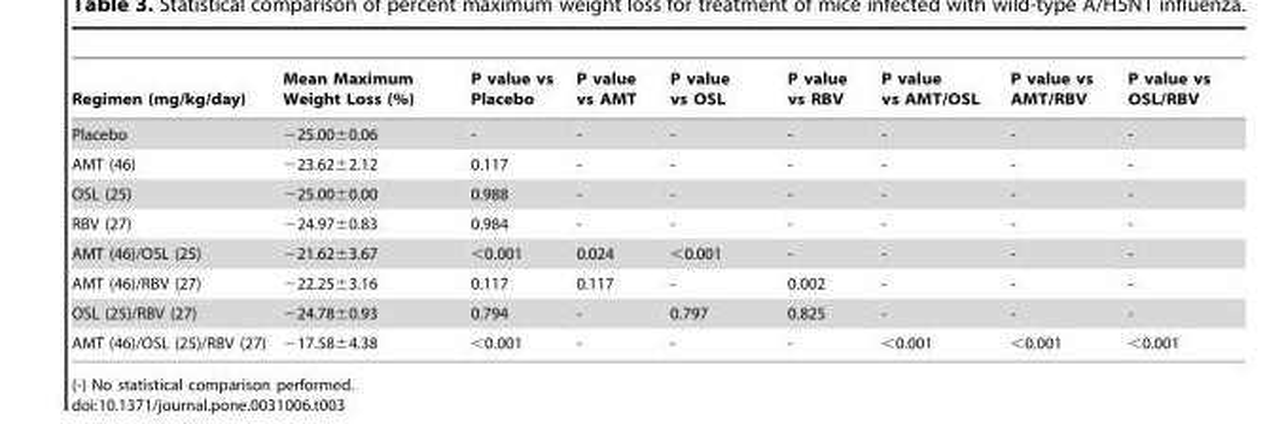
<table><thead><tr><td>Regimen (mg/kg/day)</td><td>Mean Maximum Weight Loss (%)</td><td>P value vs Placebo</td><td>P value vs AMT</td><td>P value vs OSL</td><td>P value vs RBV</td><td>P value vs AMT/OSL</td><td>P value vs AMT/RBV</td><td>P value vs OSL/RBV</td></tr></thead><tbody><tr><td>Placebo</td><td>−25.00±0.06</td><td>-</td><td>-</td><td>-</td><td>-</td><td>-</td><td>-</td><td>-</td></tr><tr><td>AMT (46)</td><td>−23.62±2.12</td><td>0.117</td><td>-</td><td>-</td><td>-</td><td>-</td><td>-</td><td>-</td></tr><tr><td>OSL (25)</td><td>−25.00±0.00</td><td>0.988</td><td>-</td><td>-</td><td>-</td><td>-</td><td>-</td><td>-</td></tr><tr><td>RBV (27)</td><td>−24.97±0.83</td><td>0.984</td><td>-</td><td>-</td><td>-</td><td>-</td><td>-</td><td>-</td></tr><tr><td>AMT (46)/OSL (25)</td><td>−21.62±3.67</td><td>&lt;0.001</td><td>0.024</td><td>&lt;0.001</td><td>-</td><td>-</td><td>-</td><td>-</td></tr><tr><td>AMT (46)/RBV (27)</td><td>−22.25±3.16</td><td>0.117</td><td>0.117</td><td>-</td><td>0.002</td><td>-</td><td>-</td><td>-</td></tr><tr><td>OSL (25)/RBV (27)</td><td>−24.78±0.93</td><td>0.794</td><td>-</td><td>0.797</td><td>0.825</td><td>-</td><td>-</td><td>-</td></tr><tr><td>AMT (46)/OSL (25)/RBV (27)</td><td>−17.58±4.38</td><td>&lt;0.001</td><td>-</td><td>-</td><td>-</td><td>&lt;0.001</td><td>&lt;0.001</td><td>&lt;0.001</td></tr></tbody></table>